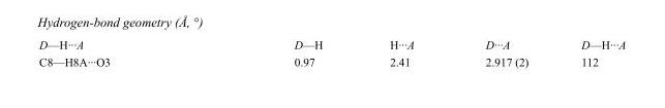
<table><tbody><tr><td>D—H···A</td><td>D—H</td><td>H···A</td><td>D···A</td><td>D—H···A</td></tr><tr><td>C8—H8A···O3</td><td>0.97</td><td>2.41</td><td>2.917 (2)</td><td>112</td></tr></tbody></table>